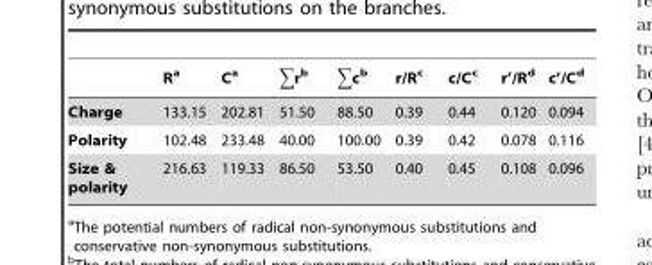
<table><thead><tr><td></td><td>R<sup>a</sup></td><td>C<sup>a</sup></td><td>∑r<sup>b</sup></td><td>∑c<sup>b</sup></td><td>r/R<sup>c</sup></td><td>c/C<sup>c</sup></td><td>r’/R<sup>d</sup></td><td>c’/C<sup>d</sup></td></tr></thead><tbody><tr><td>Charge</td><td>133.15</td><td>202.81</td><td>51.50</td><td>88.50</td><td>0.39</td><td>0.44</td><td>0.120</td><td>0.094</td></tr><tr><td>Polarity</td><td>102.48</td><td>233.48</td><td>40.00</td><td>100.00</td><td>0.39</td><td>0.42</td><td>0.078</td><td>0.116</td></tr><tr><td>Size &amp; polarity</td><td>216.63</td><td>119.33</td><td>86.50</td><td>53.50</td><td>0.40</td><td>0.45</td><td>0.108</td><td>0.096</td></tr></tbody></table>